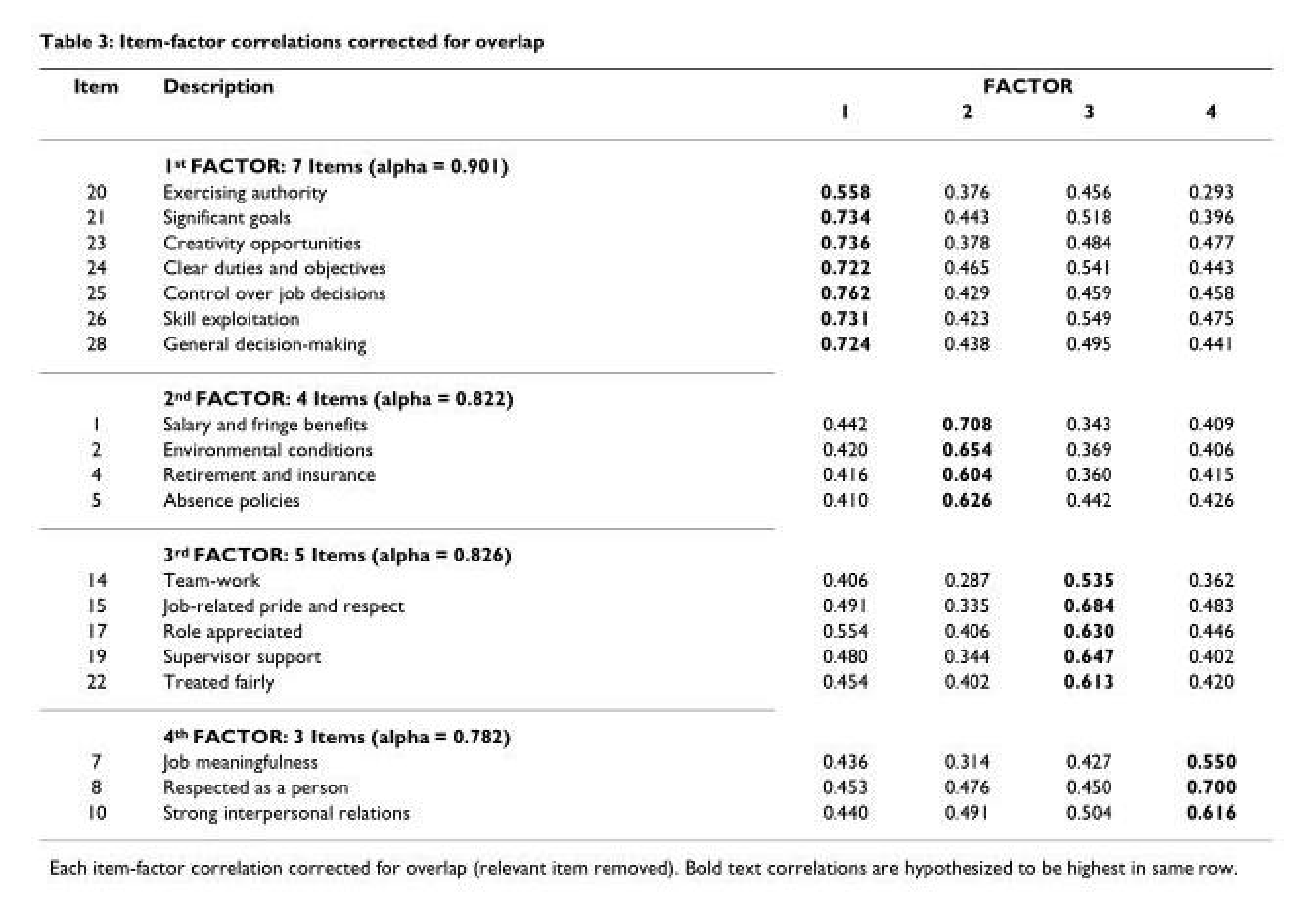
<table><thead><tr><td rowspan="2">Item</td><td rowspan="2">Description</td><td colspan="4">FACTOR</td></tr><tr><td>1</td><td>2</td><td>3</td><td>4</td></tr></thead><tbody><tr><td></td><td>1st FACTOR: 7 Items (alpha = 0.901)</td><td></td><td></td><td></td><td></td></tr><tr><td>20</td><td>Exercising authority</td><td>0.558</td><td>0.376</td><td>0.456</td><td>0.293</td></tr><tr><td>21</td><td>Significant goals</td><td>0.734</td><td>0.443</td><td>0.518</td><td>0.396</td></tr><tr><td>23</td><td>Creativity opportunities</td><td>0.736</td><td>0.378</td><td>0.484</td><td>0.477</td></tr><tr><td>24</td><td>Clear duties and objectives</td><td>0.722</td><td>0.465</td><td>0.541</td><td>0.443</td></tr><tr><td>25</td><td>Control over job decisions</td><td>0.762</td><td>0.429</td><td>0.459</td><td>0.458</td></tr><tr><td>26</td><td>Skill exploitation</td><td>0.731</td><td>0.423</td><td>0.549</td><td>0.475</td></tr><tr><td rowspan="2">28</td><td>General decision-making</td><td>0.724</td><td>0.438</td><td>0.495</td><td>0.441</td></tr><tr><td>2nd FACTOR: 4 Items (alpha = 0.822)</td><td></td><td></td><td></td><td></td></tr><tr><td>1</td><td>Salary and fringe benefits</td><td>0.442</td><td>0.708</td><td>0.343</td><td>0.409</td></tr><tr><td>2</td><td>Environmental conditions</td><td>0.420</td><td>0.654</td><td>0.369</td><td>0.406</td></tr><tr><td>4</td><td>Retirement and insurance</td><td>0.416</td><td>0.604</td><td>0.360</td><td>0.415</td></tr><tr><td rowspan="2">5</td><td>Absence policies</td><td>0.410</td><td>0.626</td><td>0.442</td><td>0.426</td></tr><tr><td>3rd FACTOR: 5 Items (alpha = 0.826)</td><td></td><td></td><td></td><td></td></tr><tr><td>14</td><td>Team-work</td><td>0.406</td><td>0.287</td><td>0.535</td><td>0.362</td></tr><tr><td>15</td><td>Job-related pride and respect</td><td>0.491</td><td>0.335</td><td>0.684</td><td>0.483</td></tr><tr><td>17</td><td>Role appreciated</td><td>0.554</td><td>0.406</td><td>0.630</td><td>0.446</td></tr><tr><td>19</td><td>Supervisor support</td><td>0.480</td><td>0.344</td><td>0.647</td><td>0.402</td></tr><tr><td rowspan="2">22</td><td>Treated fairly</td><td>0.454</td><td>0.402</td><td>0.613</td><td>0.420</td></tr><tr><td>4th FACTOR: 3 Items (alpha = 0.782)</td><td></td><td></td><td></td><td></td></tr><tr><td>7</td><td>Job meaningfulness</td><td>0.436</td><td>0.314</td><td>0.427</td><td>0.550</td></tr><tr><td>8</td><td>Respected as a person</td><td>0.453</td><td>0.476</td><td>0.450</td><td>0.700</td></tr><tr><td>10</td><td>Strong interpersonal relations</td><td>0.440</td><td>0.491</td><td>0.504</td><td>0.616</td></tr></tbody></table>